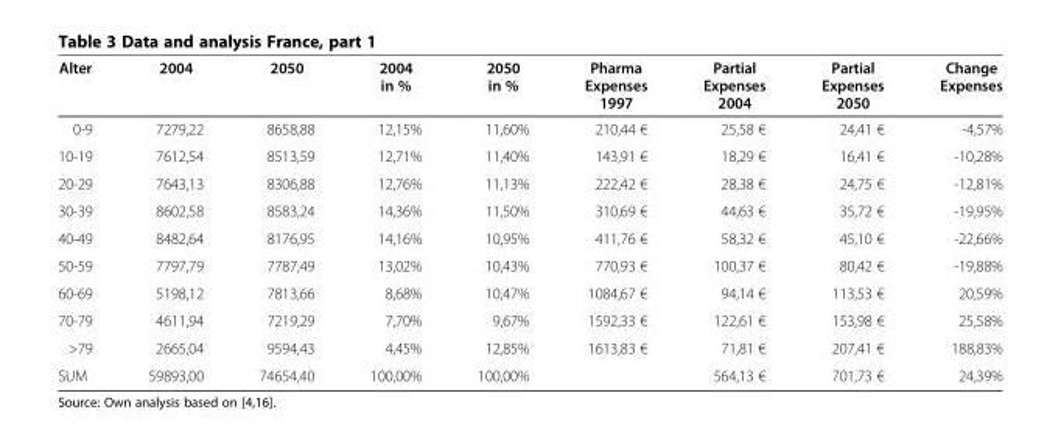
<table><thead><tr><td>Alter</td><td>2004</td><td>2050</td><td>2004 in %</td><td>2050 in %</td><td>Pharma Expenses 1997</td><td>Partial Expenses 2004</td><td>Partial Expenses 2050</td><td>Change Expenses</td></tr></thead><tbody><tr><td>0-9</td><td>7279,22</td><td>8658,88</td><td>12,15%</td><td>11,60%</td><td>210,44 €</td><td>25,58 €</td><td>24,41 €</td><td>-4,57%</td></tr><tr><td>10-19</td><td>7612,54</td><td>8513,59</td><td>12,71%</td><td>11,40%</td><td>143,91 €</td><td>18,29 €</td><td>16,41 €</td><td>-10,28%</td></tr><tr><td>20-29</td><td>7643,13</td><td>8306,88</td><td>12,76%</td><td>11,13%</td><td>222,42 €</td><td>28,38 €</td><td>24,75 €</td><td>-12,81%</td></tr><tr><td>30-39</td><td>8602,58</td><td>8583,24</td><td>14,36%</td><td>11,50%</td><td>310,69 €</td><td>44,63 €</td><td>35,72 €</td><td>-19,95%</td></tr><tr><td>40-49</td><td>8482,64</td><td>8176,95</td><td>14,16%</td><td>10,95%</td><td>411,76 €</td><td>58,32 €</td><td>45,10 €</td><td>-22,66%</td></tr><tr><td>50-59</td><td>7797,79</td><td>7787,49</td><td>13,02%</td><td>10,43%</td><td>770,93 €</td><td>100,37 €</td><td>80,42 €</td><td>-19,88%</td></tr><tr><td>60-69</td><td>5198,12</td><td>7813,66</td><td>8,68%</td><td>10,47%</td><td>1084,67 €</td><td>94,14 €</td><td>113,53 €</td><td>20,59%</td></tr><tr><td>70-79</td><td>4611,94</td><td>7219,29</td><td>7,70%</td><td>9,67%</td><td>1592,33 €</td><td>122,61 €</td><td>153,98 €</td><td>25,58%</td></tr><tr><td>&gt;79</td><td>2665,04</td><td>9594,43</td><td>4,45%</td><td>12,85%</td><td>1613,83 €</td><td>71,81 €</td><td>207,41 €</td><td>188,83%</td></tr><tr><td>SUM</td><td>59893,00</td><td>74654,40</td><td>100,00%</td><td>100,00%</td><td></td><td>564,13 €</td><td>701,73 €</td><td>24,39%</td></tr></tbody></table>